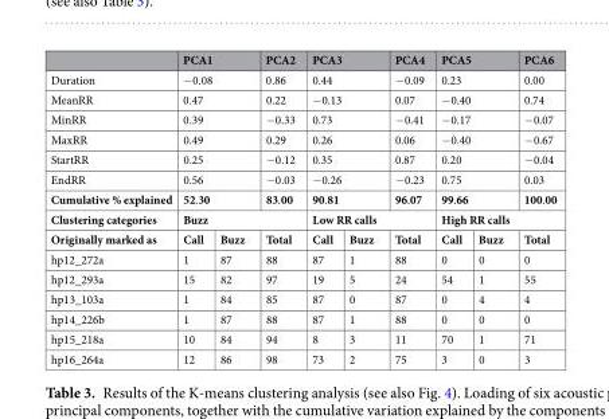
<table><thead><tr><td></td><td colspan="2">PCA1</td><td>PCA2</td><td colspan="2">PCA3</td><td>PCA4</td><td colspan="2">PCA5</td><td>PCA6</td></tr></thead><tbody><tr><td>Duration</td><td colspan="2">−0.08</td><td>0.86</td><td colspan="2">0.44</td><td>−0.09</td><td colspan="2">0.23</td><td>0.00</td></tr><tr><td>MeanRR</td><td colspan="2">0.47</td><td>0.22</td><td colspan="2">−0.13</td><td>0.07</td><td colspan="2">−0.40</td><td>0.74</td></tr><tr><td>MinRR</td><td colspan="2">0.39</td><td>−0.33</td><td colspan="2">0.73</td><td>−0.41</td><td colspan="2">−0.17</td><td>−0.07</td></tr><tr><td>MaxRR</td><td colspan="2">0.49</td><td>0.29</td><td colspan="2">0.26</td><td>0.06</td><td colspan="2">−0.40</td><td>−0.67</td></tr><tr><td>StartRR</td><td colspan="2">0.25</td><td>−0.12</td><td colspan="2">0.35</td><td>0.87</td><td colspan="2">0.20</td><td>−0.04</td></tr><tr><td>EndRR</td><td colspan="2">0.56</td><td>−0.03</td><td colspan="2">−0.26</td><td>−0.23</td><td colspan="2">0.75</td><td>0.03</td></tr><tr><td>Cumulative % explained</td><td colspan="2">52.30</td><td>83.00</td><td colspan="2">90.81</td><td>96.07</td><td colspan="2">99.66</td><td>100.00</td></tr><tr><td>Clustering categories</td><td colspan="3">Buzz</td><td colspan="3">Low RR calls</td><td colspan="3">High RR calls</td></tr><tr><td>Originally marked as</td><td>Call</td><td>Buzz</td><td>Total</td><td>Call</td><td>Buzz</td><td>Total</td><td>Call</td><td>Buzz</td><td>Total</td></tr><tr><td>hp12_272a</td><td>1</td><td>87</td><td>88</td><td>87</td><td>1</td><td>88</td><td>0</td><td>0</td><td>0</td></tr><tr><td>hp12_293a</td><td>15</td><td>82</td><td>97</td><td>19</td><td>5</td><td>24</td><td>54</td><td>1</td><td>55</td></tr><tr><td>hp13_103a</td><td>1</td><td>84</td><td>85</td><td>87</td><td>0</td><td>87</td><td>0</td><td>4</td><td>4</td></tr><tr><td>hp14_226b</td><td>1</td><td>87</td><td>88</td><td>87</td><td>1</td><td>88</td><td>0</td><td>0</td><td>0</td></tr><tr><td>hp15_218a</td><td>10</td><td>84</td><td>94</td><td>8</td><td>3</td><td>11</td><td>70</td><td>1</td><td>71</td></tr><tr><td>hp16_264a</td><td>12</td><td>86</td><td>98</td><td>73</td><td>2</td><td>75</td><td>3</td><td>0</td><td>3</td></tr></tbody></table>